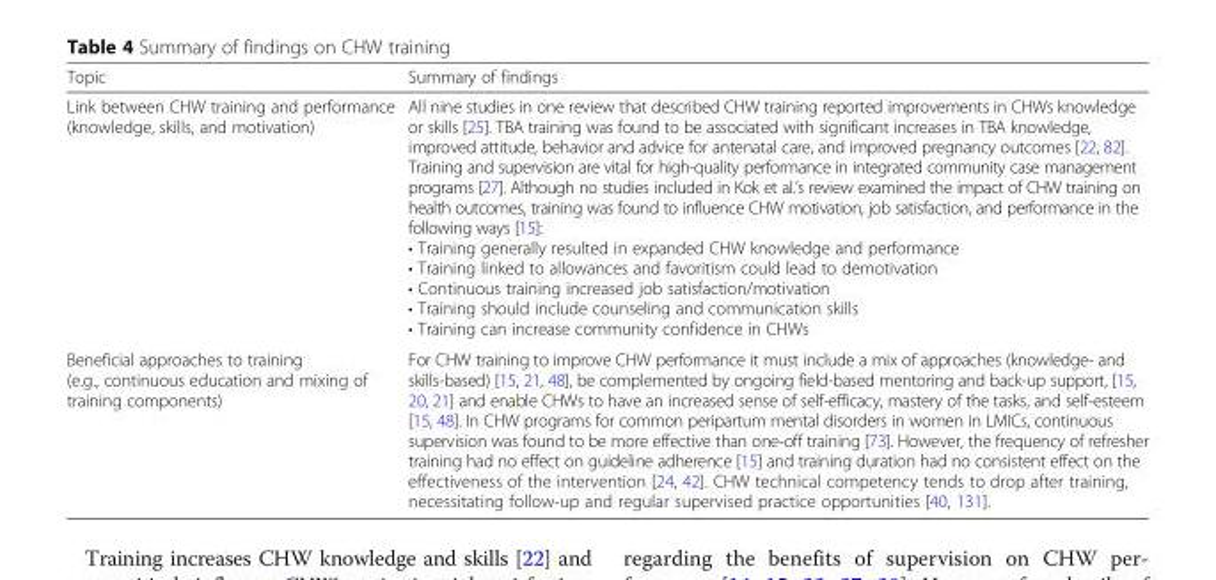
<table><thead><tr><td>Topic</td><td>Summary of findings</td></tr></thead><tbody><tr><td>Link between CHW training and performance (knowledge, skills, and motivation)</td><td>All nine studies in one review that described CHW training reported improvements in CHWs knowledge or skills [25]. TBA training was found to be associated with significant increases in TBA knowledge, improved attitude, behavior and advice for antenatal care, and improved pregnancy outcomes [22, 82]. Training and supervision are vital for high-quality performance in integrated community case management programs [27]. Although no studies included in Kok et al.’s review examined the impact of CHW training on health outcomes, training was found to influence CHW motivation, job satisfaction, and performance in the following ways [15]: • Training generally resulted in expanded CHW knowledge and performance • Training linked to allowances and favoritism could lead to demotivation • Continuous training increased job satisfaction/motivation • Training should include counseling and communication skills • Training can increase community confidence in CHWs</td></tr><tr><td>Beneficial approaches to training (e.g., continuous education and mixing of training components)</td><td>For CHW training to improve CHW performance it must include a mix of approaches (knowledge- and skills-based) [15, 21, 48], be complemented by ongoing field-based mentoring and back-up support, [15, 20, 21] and enable CHWs to have an increased sense of self-efficacy, mastery of the tasks, and self-esteem [15, 48]. In CHW programs for common peripartum mental disorders in women in LMICs, continuous supervision was found to be more effective than one-off training [73]. However, the frequency of refresher training had no effect on guideline adherence [15] and training duration had no consistent effect on the effectiveness of the intervention [24, 42]. CHW technical competency tends to drop after training, necessitating follow-up and regular supervised practice opportunities [40, 131].</td></tr></tbody></table>